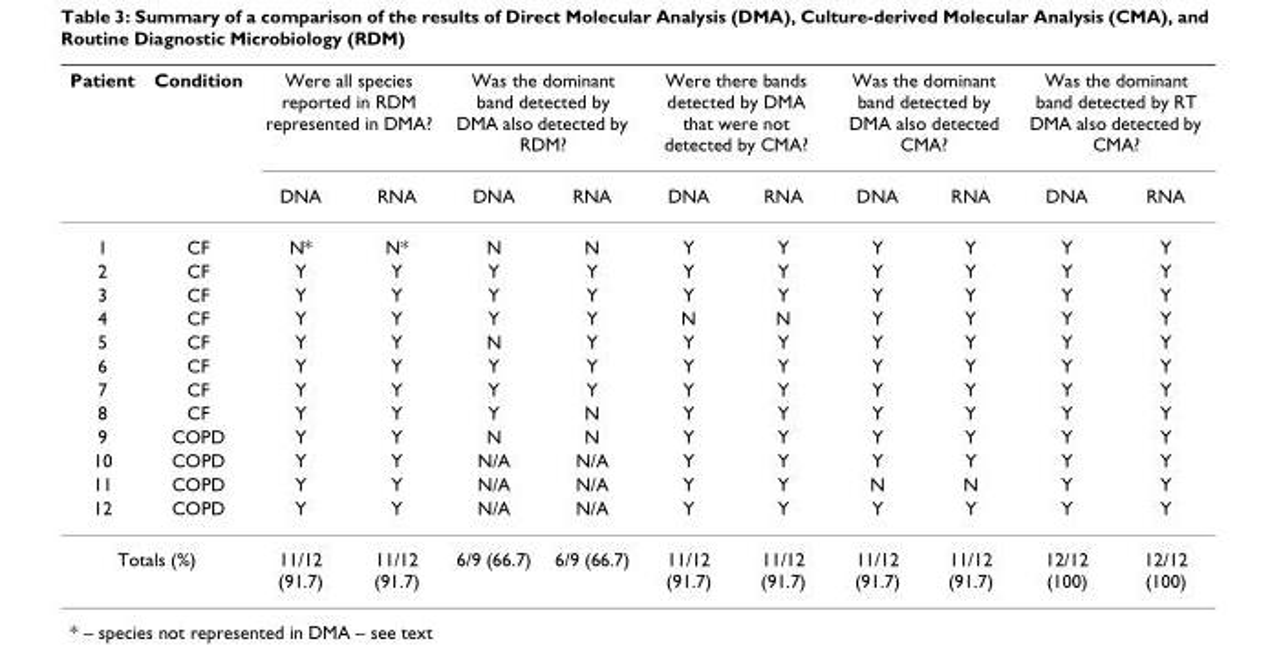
<table><thead><tr><td rowspan="2">Patient</td><td rowspan="2">Condition</td><td colspan="2">Were all species reported in RDM represented in DMA?</td><td colspan="2">Was the dominant band detected by DMA also detected by RDM?</td><td colspan="2">Were there bands detected by DMA that were not detected by CMA?</td><td colspan="2">Was the dominant band detected by DMA also detected CMA?</td><td colspan="2">Was the dominant band detected by RT DMA also detected by CMA?</td></tr><tr><td>DNA</td><td>RNA</td><td>DNA</td><td>RNA</td><td>DNA</td><td>RNA</td><td>DNA</td><td>RNA</td><td>DNA</td><td>RNA</td></tr></thead><tbody><tr><td>1</td><td>CF</td><td>N*</td><td>N*</td><td>N</td><td>N</td><td>Y</td><td>Y</td><td>Y</td><td>Y</td><td>Y</td><td>Y</td></tr><tr><td>2</td><td>CF</td><td>Y</td><td>Y</td><td>Y</td><td>Y</td><td>Y</td><td>Y</td><td>Y</td><td>Y</td><td>Y</td><td>Y</td></tr><tr><td>3</td><td>CF</td><td>Y</td><td>Y</td><td>Y</td><td>Y</td><td>Y</td><td>Y</td><td>Y</td><td>Y</td><td>Y</td><td>Y</td></tr><tr><td>4</td><td>CF</td><td>Y</td><td>Y</td><td>Y</td><td>Y</td><td>N</td><td>N</td><td>Y</td><td>Y</td><td>Y</td><td>Y</td></tr><tr><td>5</td><td>CF</td><td>Y</td><td>Y</td><td>N</td><td>Y</td><td>Y</td><td>Y</td><td>Y</td><td>Y</td><td>Y</td><td>Y</td></tr><tr><td>6</td><td>CF</td><td>Y</td><td>Y</td><td>Y</td><td>Y</td><td>Y</td><td>Y</td><td>Y</td><td>Y</td><td>Y</td><td>Y</td></tr><tr><td>7</td><td>CF</td><td>Y</td><td>Y</td><td>Y</td><td>Y</td><td>Y</td><td>Y</td><td>Y</td><td>Y</td><td>Y</td><td>Y</td></tr><tr><td>8</td><td>CF</td><td>Y</td><td>Y</td><td>Y</td><td>N</td><td>Y</td><td>Y</td><td>Y</td><td>Y</td><td>Y</td><td>Y</td></tr><tr><td>9</td><td>COPD</td><td>Y</td><td>Y</td><td>N</td><td>N</td><td>Y</td><td>Y</td><td>Y</td><td>Y</td><td>Y</td><td>Y</td></tr><tr><td>10</td><td>COPD</td><td>Y</td><td>Y</td><td>N/A</td><td>N/A</td><td>Y</td><td>Y</td><td>Y</td><td>Y</td><td>Y</td><td>Y</td></tr><tr><td>11</td><td>COPD</td><td>Y</td><td>Y</td><td>N/A</td><td>N/A</td><td>Y</td><td>Y</td><td>N</td><td>N</td><td>Y</td><td>Y</td></tr><tr><td>12</td><td>COPD</td><td>Y</td><td>Y</td><td>N/A</td><td>N/A</td><td>Y</td><td>Y</td><td>Y</td><td>Y</td><td>Y</td><td>Y</td></tr><tr><td colspan="2">Totals (%)</td><td>11/12 (91.7)</td><td>11/12 (91.7)</td><td>6/9 (66.7)</td><td>6/9 (66.7)</td><td>11/12 (91.7)</td><td>11/12 (91.7)</td><td>11/12 (91.7)</td><td>11/12 (91.7)</td><td>12/12 (100)</td><td>12/12 (100)</td></tr></tbody></table>